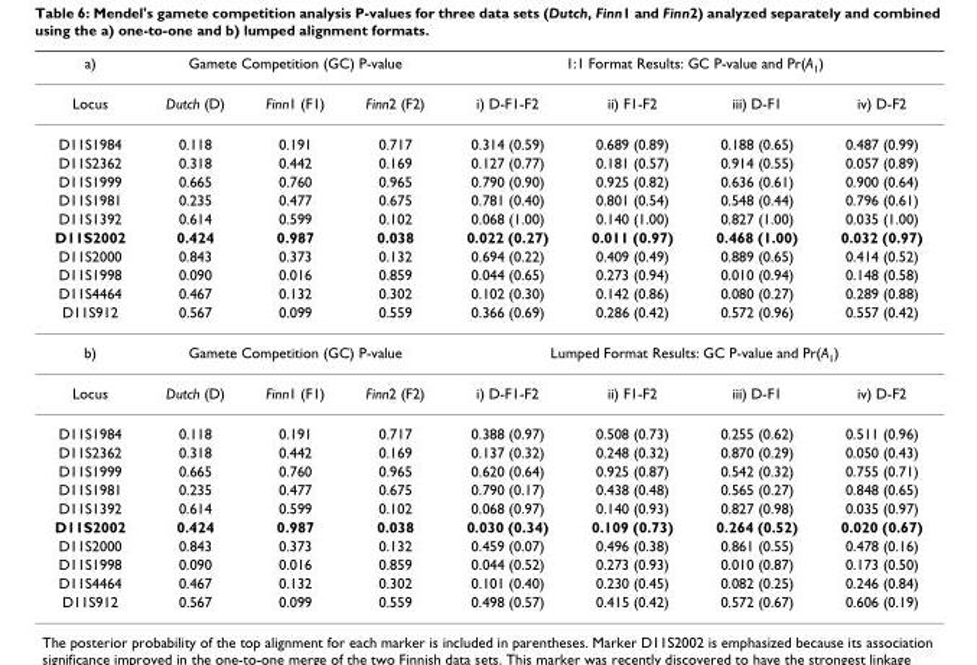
<table><thead><tr><td rowspan="2">a) Locus</td><td colspan="3">Gamete Competition (GC) P-value</td><td colspan="4">1:1 Format Results: GC P-value and Pr(A<sub>1</sub>)</td></tr><tr><td>Dutch (D)</td><td>Finn1 (F1)</td><td>Finn2 (F2)</td><td>i) D-F1-F2</td><td>ii) F1-F2</td><td>iii) D-F1</td><td>iv) D-F2</td></tr></thead><tbody><tr><td>D11S1984</td><td>0.118</td><td>0.191</td><td>0.717</td><td>0.314 (0.59)</td><td>0.689 (0.89)</td><td>0.188 (0.65)</td><td>0.487 (0.99)</td></tr><tr><td>D11S2362</td><td>0.318</td><td>0.442</td><td>0.169</td><td>0.127 (0.77)</td><td>0.181 (0.57)</td><td>0.914 (0.55)</td><td>0.057 (0.89)</td></tr><tr><td>D11S1999</td><td>0.665</td><td>0.760</td><td>0.965</td><td>0.790 (0.90)</td><td>0.925 (0.82)</td><td>0.636 (0.61)</td><td>0.900 (0.64)</td></tr><tr><td>D11S1981</td><td>0.235</td><td>0.477</td><td>0.675</td><td>0.781 (0.40)</td><td>0.801 (0.54)</td><td>0.548 (0.44)</td><td>0.796 (0.61)</td></tr><tr><td>D11S1392</td><td>0.614</td><td>0.599</td><td>0.102</td><td>0.068 (1.00)</td><td>0.140 (1.00)</td><td>0.827 (1.00)</td><td>0.035 (1.00)</td></tr><tr><td>D11S2002</td><td>0.424</td><td>0.987</td><td>0.038</td><td>0.022 (0.27)</td><td>0.011 (0.97)</td><td>0.468 (1.00)</td><td>0.032 (0.97)</td></tr><tr><td>D11S2000</td><td>0.843</td><td>0.373</td><td>0.132</td><td>0.694 (0.22)</td><td>0.409 (0.49)</td><td>0.889 (0.65)</td><td>0.414 (0.52)</td></tr><tr><td>D11S1998</td><td>0.090</td><td>0.016</td><td>0.859</td><td>0.044 (0.65)</td><td>0.273 (0.94)</td><td>0.010 (0.94)</td><td>0.148 (0.58)</td></tr><tr><td>D11S4464</td><td>0.467</td><td>0.132</td><td>0.302</td><td>0.102 (0.30)</td><td>0.142 (0.86)</td><td>0.080 (0.27)</td><td>0.289 (0.88)</td></tr><tr><td>D11S912</td><td>0.567</td><td>0.099</td><td>0.559</td><td>0.366 (0.69)</td><td>0.286 (0.42)</td><td>0.572 (0.96)</td><td>0.557 (0.42)</td></tr><tr><td>b)</td><td colspan="3">Gamete Competition (GC) P-value</td><td colspan="4">Lumped Format Results: GC P-value and Pr(A<sub>1</sub>)</td></tr><tr><td>Locus</td><td>Dutch (D)</td><td>Finn1 (F1)</td><td>Finn2 (F2)</td><td>i) D-F1-F2</td><td>ii) F1-F2</td><td>iii) D-F1</td><td>iv) D-F2</td></tr><tr><td>D11S1984</td><td>0.118</td><td>0.191</td><td>0.717</td><td>0.388 (0.97)</td><td>0.508 (0.73)</td><td>0.255 (0.62)</td><td>0.511 (0.96)</td></tr><tr><td>D11S2362</td><td>0.318</td><td>0.442</td><td>0.169</td><td>0.137 (0.32)</td><td>0.248 (0.32)</td><td>0.870 (0.29)</td><td>0.050 (0.43)</td></tr><tr><td>D11S1999</td><td>0.665</td><td>0.760</td><td>0.965</td><td>0.620 (0.64)</td><td>0.925 (0.87)</td><td>0.542 (0.32)</td><td>0.755 (0.71)</td></tr><tr><td>D11S1981</td><td>0.235</td><td>0.477</td><td>0.675</td><td>0.790 (0.17)</td><td>0.438 (0.48)</td><td>0.565 (0.27)</td><td>0.848 (0.65)</td></tr><tr><td>D11S1392</td><td>0.614</td><td>0.599</td><td>0.102</td><td>0.068 (0.97)</td><td>0.140 (0.93)</td><td>0.827 (0.98)</td><td>0.035 (0.97)</td></tr><tr><td>D11S2002</td><td>0.424</td><td>0.987</td><td>0.038</td><td>0.030 (0.34)</td><td>0.109 (0.73)</td><td>0.264 (0.52)</td><td>0.020 (0.67)</td></tr><tr><td>D11S2000</td><td>0.843</td><td>0.373</td><td>0.132</td><td>0.459 (0.07)</td><td>0.496 (0.38)</td><td>0.861 (0.55)</td><td>0.478 (0.16)</td></tr><tr><td>D11S1998</td><td>0.090</td><td>0.016</td><td>0.859</td><td>0.044 (0.52)</td><td>0.273 (0.93)</td><td>0.010 (0.87)</td><td>0.173 (0.50)</td></tr><tr><td>D11S4464</td><td>0.467</td><td>0.132</td><td>0.302</td><td>0.101 (0.40)</td><td>0.230 (0.45)</td><td>0.082 (0.25)</td><td>0.246 (0.84)</td></tr><tr><td>D11S912</td><td>0.567</td><td>0.099</td><td>0.559</td><td>0.498 (0.57)</td><td>0.415 (0.42)</td><td>0.572 (0.67)</td><td>0.606 (0.19)</td></tr></tbody></table>